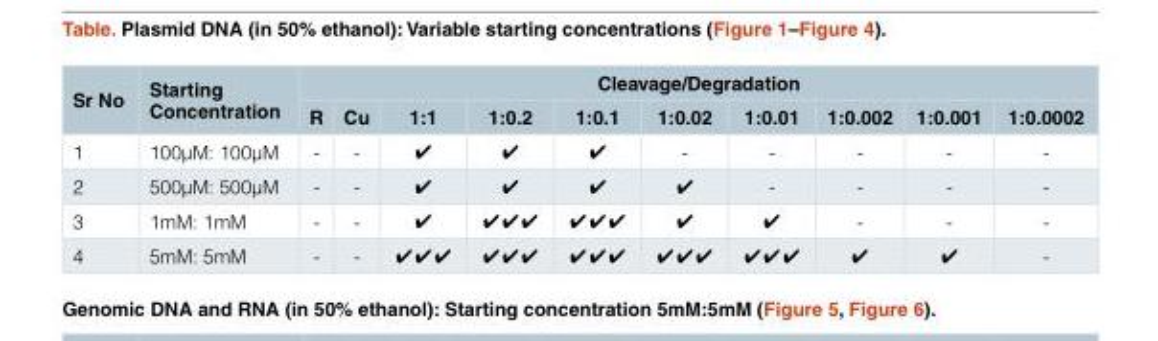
<table><thead><tr><td rowspan="2">Sr No</td><td rowspan="2">Starting Concentration</td><td colspan="10">Cleavage/Degradation</td></tr><tr><td>R</td><td>Cu</td><td>1:1</td><td>1:0.2</td><td>1:0.1</td><td>1:0.02</td><td>1:0.01</td><td>1:0.002</td><td>1:0.001</td><td>1:0.0002</td></tr></thead><tbody><tr><td>1</td><td>100µM: 100µM</td><td>-</td><td>-</td><td>✔</td><td>✔</td><td>✔</td><td>-</td><td>-</td><td>-</td><td>-</td><td>-</td></tr><tr><td>2</td><td>500µM: 500µM</td><td>-</td><td>-</td><td>✔</td><td>✔</td><td>✔</td><td>✔</td><td>-</td><td>-</td><td>-</td><td>-</td></tr><tr><td>3</td><td>1mM: 1mM</td><td>-</td><td>-</td><td>✔</td><td>✔✔✔</td><td>✔✔✔</td><td>✔</td><td>✔</td><td>-</td><td>-</td><td>-</td></tr><tr><td>4</td><td>5mM: 5mM</td><td>-</td><td>-</td><td>✔✔✔</td><td>✔✔✔</td><td>✔✔✔</td><td>✔✔✔</td><td>✔✔✔</td><td>✔</td><td>✔</td><td>-</td></tr></tbody></table>